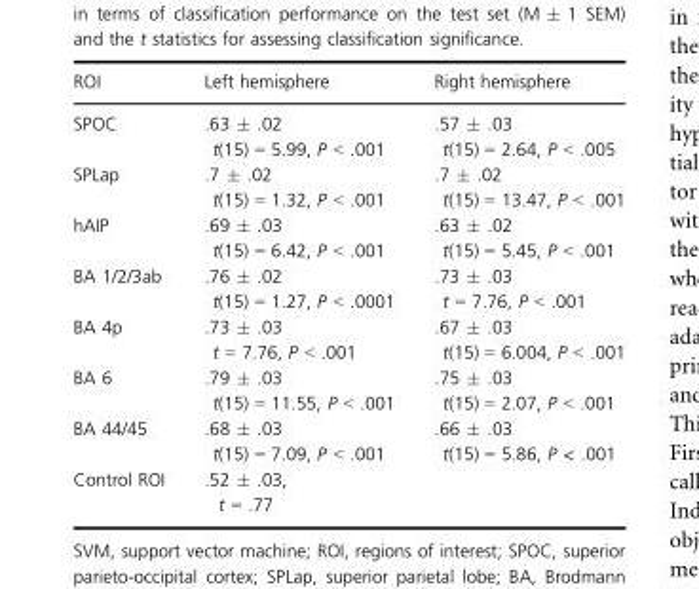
<table><thead><tr><td>ROI</td><td>Left hemisphere</td><td>Right hemisphere</td></tr></thead><tbody><tr><td>SPOC</td><td>.63 ± .02 t(15) = 5.99, P &lt; .001</td><td>.57 ± .03 t(15) = 2.64, P &lt; .005</td></tr><tr><td>SPLap</td><td>.7 ± .02 t(15) = 1.32, P &lt; .001</td><td>.7 ± .02 t(15) = 13.47, P &lt; .001</td></tr><tr><td>hAIP</td><td>.69 ± .03 t(15) = 6.42, P &lt; .001</td><td>.63 ± .02 t(15) = 5.45, P &lt; .001</td></tr><tr><td>BA 1/2/3ab</td><td>.76 ± .02 t(15) = 1.27, P &lt; .0001</td><td>.73 ± .03 t = 7.76, P &lt; .001</td></tr><tr><td>BA 4p</td><td>.73 ± .03 t = 7.76, P &lt; .001</td><td>.67 ± .03 t(15) = 6.004, P &lt; .001</td></tr><tr><td>BA 6</td><td>.79 ± .03 t(15) = 11.55, P &lt; .001</td><td>.75 ± .03 t(15) = 2.07, P &lt; .001</td></tr><tr><td>BA 44/45</td><td>.68 ± .03 t(15) = 7.09, P &lt; .001</td><td>.66 ± .03 t(15) = 5.86, P &lt; .001</td></tr><tr><td>Control ROI</td><td colspan="2">.52 ± .03, t = .77</td></tr></tbody></table>